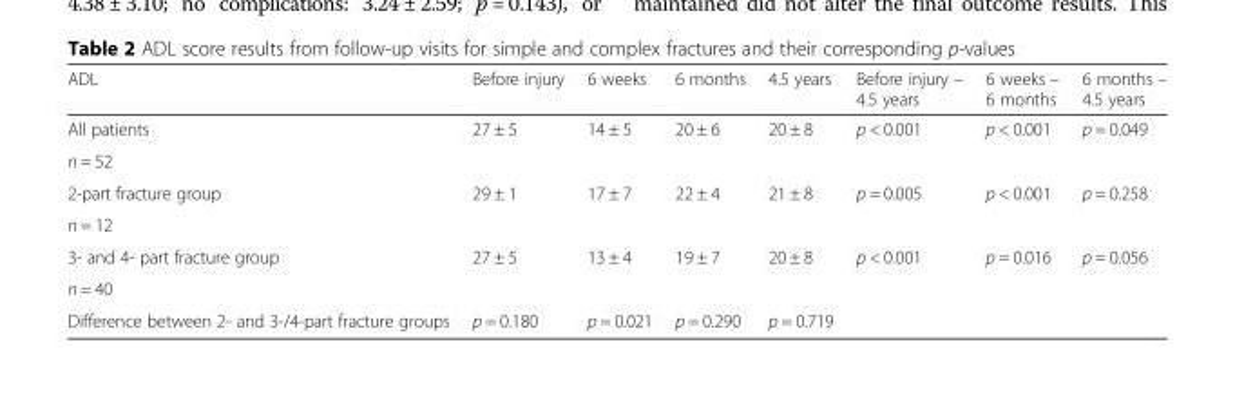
<table><thead><tr><td>ADL</td><td>Before injury</td><td>6 weeks</td><td>6 months</td><td>4.5 years</td><td>Before injury – 4.5 years</td><td>6 weeks – 6 months</td><td>6 months – 4.5 years</td></tr></thead><tbody><tr><td>All patients</td><td rowspan="2">27 ± 5</td><td rowspan="2">14 ± 5</td><td rowspan="2">20 ± 6</td><td rowspan="2">20 ± 8</td><td rowspan="2">p &lt; 0.001</td><td rowspan="2">p &lt; 0.001</td><td rowspan="2">p = 0.049</td></tr><tr><td>n = 52</td></tr><tr><td>2-part fracture group</td><td rowspan="2">29 ± 1</td><td rowspan="2">17 ± 7</td><td rowspan="2">22 ± 4</td><td rowspan="2">21 ± 8</td><td rowspan="2">p = 0.005</td><td rowspan="2">p &lt; 0.001</td><td rowspan="2">p = 0.258</td></tr><tr><td>n = 12</td></tr><tr><td>3- and 4- part fracture group</td><td rowspan="2">27 ± 5</td><td rowspan="2">13 ± 4</td><td rowspan="2">19 ± 7</td><td rowspan="2">20 ± 8</td><td rowspan="2">p &lt; 0.001</td><td rowspan="2">p = 0.016</td><td rowspan="2">p = 0.056</td></tr><tr><td>n = 40</td></tr><tr><td>Difference between 2- and 3-/4-part fracture groups</td><td>p = 0.180</td><td>p = 0.021</td><td>p = 0.290</td><td>p = 0.719</td><td></td><td></td><td></td></tr></tbody></table>